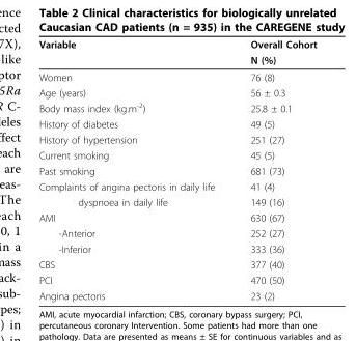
<table><thead><tr><td rowspan="2">Variable</td><td rowspan="2">Overall Cohort N (%)</td></tr><tr></tr></thead><tbody><tr><td>Women</td><td>76 (8)</td></tr><tr><td>Age (years)</td><td>56 ± 0.3</td></tr><tr><td>Body mass index (kg.m<sup>-2</sup>)</td><td>25.8 ± 0.1</td></tr><tr><td>History of diabetes</td><td>49 (5)</td></tr><tr><td>History of hypertension</td><td>251 (27)</td></tr><tr><td>Current smoking</td><td>45 (5)</td></tr><tr><td>Past smoking</td><td>681 (73)</td></tr><tr><td>Complaints of angina pectoris in daily life</td><td>41 (4)</td></tr><tr><td>dyspnoea in daily life</td><td>149 (16)</td></tr><tr><td>AMI</td><td>630 (67)</td></tr><tr><td>-Anterior</td><td>252 (27)</td></tr><tr><td>-Inferior</td><td>333 (36)</td></tr><tr><td>CBS</td><td>377 (40)</td></tr><tr><td>PCI</td><td>470 (50)</td></tr><tr><td>Angina pectoris</td><td>23 (2)</td></tr></tbody></table>